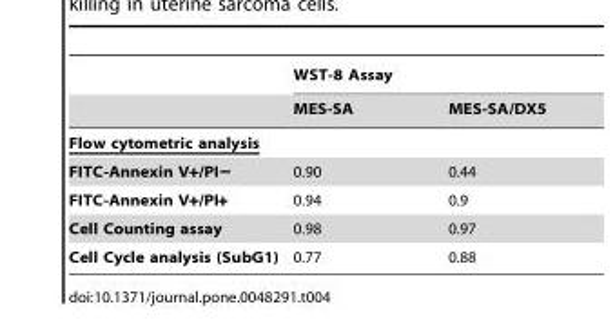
<table><thead><tr><td rowspan="2"></td><td colspan="2">WST-8 Assay</td></tr><tr><td>MES-SA</td><td>MES-SA/DX5</td></tr></thead><tbody><tr><td colspan="3">Flow cytometric analysis</td></tr><tr><td>FITC-Annexin V+/PI−</td><td>0.90</td><td>0.44</td></tr><tr><td>FITC-Annexin V+/PI+</td><td>0.94</td><td>0.9</td></tr><tr><td>Cell Counting assay</td><td>0.98</td><td>0.97</td></tr><tr><td>Cell Cycle analysis (SubG1)</td><td>0.77</td><td>0.88</td></tr></tbody></table>